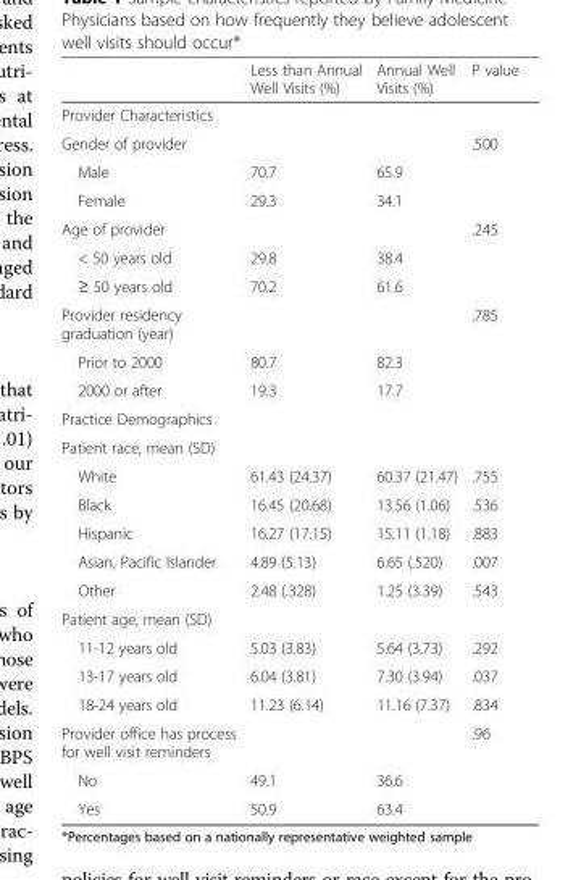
<table><thead><tr><td></td><td>Less than Annual Well Visits (%)</td><td>Annual Well Visits (%)</td><td>P value</td></tr></thead><tbody><tr><td colspan="4">Provider Characteristics</td></tr><tr><td>Gender of provider</td><td></td><td></td><td>.500</td></tr><tr><td>Male</td><td>70.7</td><td>65.9</td><td></td></tr><tr><td>Female</td><td>29.3</td><td>34.1</td><td></td></tr><tr><td>Age of provider</td><td></td><td></td><td>.245</td></tr><tr><td>&lt; 50 years old</td><td>29.8</td><td>38.4</td><td></td></tr><tr><td>≥ 50 years old</td><td>70.2</td><td>61.6</td><td></td></tr><tr><td>Provider residency graduation (year)</td><td></td><td></td><td>.785</td></tr><tr><td>Prior to 2000</td><td>80.7</td><td>82.3</td><td></td></tr><tr><td>2000 or after</td><td>19.3</td><td>17.7</td><td></td></tr><tr><td colspan="4">Practice Demographics</td></tr><tr><td colspan="4">Patient race, mean (SD)</td></tr><tr><td>White</td><td>61.43 (24.37)</td><td>60.37 (21.47)</td><td>.755</td></tr><tr><td>Black</td><td>16.45 (20.68)</td><td>13.56 (1.06)</td><td>.536</td></tr><tr><td>Hispanic</td><td>16.27 (17.15)</td><td>15.11 (1.18)</td><td>.883</td></tr><tr><td>Asian, Pacific Islander</td><td>4.89 (5.13)</td><td>6.65 (.520)</td><td>.007</td></tr><tr><td>Other</td><td>2.48 (.328)</td><td>1.25 (3.39)</td><td>.543</td></tr><tr><td colspan="4">Patient age, mean (SD)</td></tr><tr><td>11-12 years old</td><td>5.03 (3.83)</td><td>5.64 (3.73)</td><td>.292</td></tr><tr><td>13-17 years old</td><td>6.04 (3.81)</td><td>7.30 (3.94)</td><td>.037</td></tr><tr><td>18-24 years old</td><td>11.23 (6.14)</td><td>11.16 (7.37)</td><td>.834</td></tr><tr><td>Provider office has process for well visit reminders</td><td></td><td></td><td>.96</td></tr><tr><td>No</td><td>49.1</td><td>36.6</td><td rowspan="2"></td></tr><tr><td>Yes</td><td>50.9</td><td>63.4</td></tr></tbody></table>